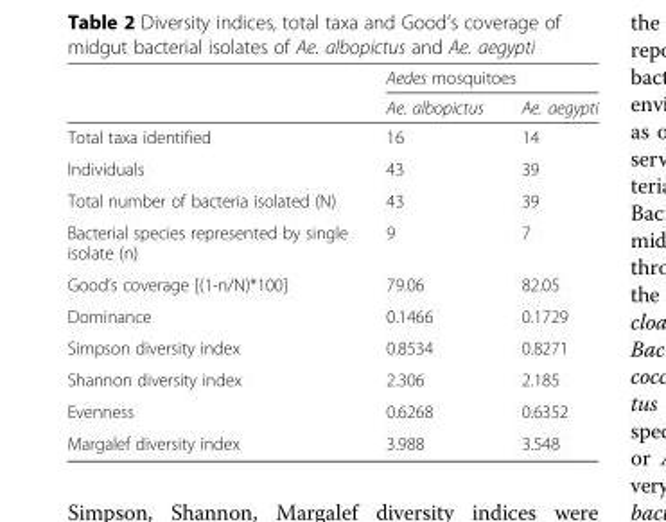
<table><thead><tr><td rowspan="2"></td><td colspan="2">Aedes mosquitoes</td></tr><tr><td>Ae. albopictus</td><td>Ae. aegypti</td></tr></thead><tbody><tr><td>Total taxa identified</td><td>16</td><td>14</td></tr><tr><td>Individuals</td><td>43</td><td>39</td></tr><tr><td>Total number of bacteria isolated (N)</td><td>43</td><td>39</td></tr><tr><td>Bacterial species represented by single isolate (n)</td><td>9</td><td>7</td></tr><tr><td>Good’s coverage [(1-n/N)*100]</td><td>79.06</td><td>82.05</td></tr><tr><td>Dominance</td><td>0.1466</td><td>0.1729</td></tr><tr><td>Simpson diversity index</td><td>0.8534</td><td>0.8271</td></tr><tr><td>Shannon diversity index</td><td>2.306</td><td>2.185</td></tr><tr><td>Evenness</td><td>0.6268</td><td>0.6352</td></tr><tr><td>Margalef diversity index</td><td>3.988</td><td>3.548</td></tr></tbody></table>